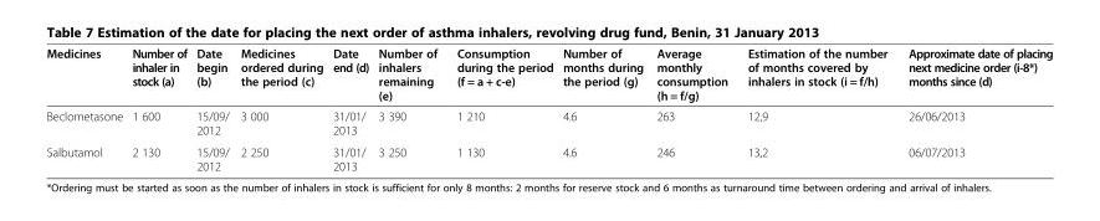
<table><thead><tr><td>Medicines</td><td>Number of inhaler in stock (a)</td><td>Date begin (b)</td><td>Medicines ordered during the period (c)</td><td>Date end (d)</td><td>Number of inhalers remaining (e)</td><td>Consumption during the period (f = a + c-e)</td><td>Number of months during the period (g)</td><td>Average monthly consumption (h = f/g)</td><td>Estimation of the number of months covered by inhalers in stock (i = f/h)</td><td>Approximate date of placing next medicine order (i-8*) months since (d)</td></tr></thead><tbody><tr><td>Beclometasone</td><td>1 600</td><td>15/09/ 2012</td><td>3 000</td><td>31/01/ 2013</td><td>3 390</td><td>1 210</td><td>4.6</td><td>263</td><td>12,9</td><td>26/06/2013</td></tr><tr><td>Salbutamol</td><td>2 130</td><td>15/09/ 2012</td><td>2 250</td><td>31/01/ 2013</td><td>3 250</td><td>1 130</td><td>4.6</td><td>246</td><td>13,2</td><td>06/07/2013</td></tr></tbody></table>